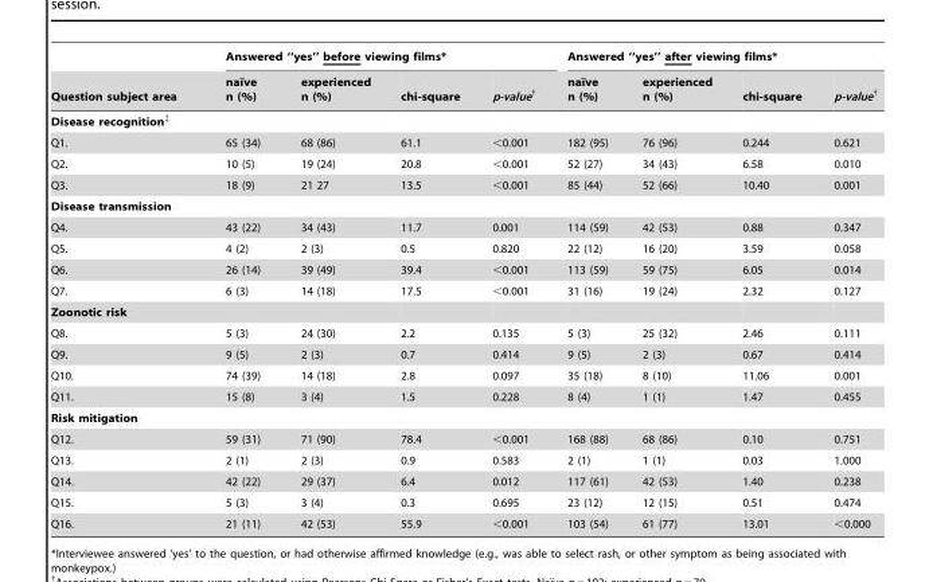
<table><thead><tr><td rowspan="2">Question subject area</td><td colspan="4">Answered ‘‘yes’’ before viewing films*</td><td colspan="4">Answered ‘‘yes’’ after viewing films*</td></tr><tr><td>naı¨ve n (%)</td><td>experienced n (%)</td><td>chi-square</td><td>p-value†</td><td>naı¨ve n (%)</td><td>experienced n (%)</td><td>chi-square</td><td>p-value†</td></tr></thead><tbody><tr><td colspan="9">Disease recognition‡</td></tr><tr><td>Q1.</td><td>65 (34)</td><td>68 (86)</td><td>61.1</td><td>&lt;0.001</td><td>182 (95)</td><td>76 (96)</td><td>0.244</td><td>0.621</td></tr><tr><td>Q2.</td><td>10 (5)</td><td>19 (24)</td><td>20.8</td><td>&lt;0.001</td><td>52 (27)</td><td>34 (43)</td><td>6.58</td><td>0.010</td></tr><tr><td>Q3.</td><td>18 (9)</td><td>21 27</td><td>13.5</td><td>&lt;0.001</td><td>85 (44)</td><td>52 (66)</td><td>10.40</td><td>0.001</td></tr><tr><td colspan="9">Disease transmission</td></tr><tr><td>Q4.</td><td>43 (22)</td><td>34 (43)</td><td>11.7</td><td>0.001</td><td>114 (59)</td><td>42 (53)</td><td>0.88</td><td>0.347</td></tr><tr><td>Q5.</td><td>4 (2)</td><td>2 (3)</td><td>0.5</td><td>0.820</td><td>22 (12)</td><td>16 (20)</td><td>3.59</td><td>0.058</td></tr><tr><td>Q6.</td><td>26 (14)</td><td>39 (49)</td><td>39.4</td><td>&lt;0.001</td><td>113 (59)</td><td>59 (75)</td><td>6.05</td><td>0.014</td></tr><tr><td>Q7.</td><td>6 (3)</td><td>14 (18)</td><td>17.5</td><td>&lt;0.001</td><td>31 (16)</td><td>19 (24)</td><td>2.32</td><td>0.127</td></tr><tr><td colspan="9">Zoonotic risk</td></tr><tr><td>Q8.</td><td>5 (3)</td><td>24 (30)</td><td>2.2</td><td>0.135</td><td>5 (3)</td><td>25 (32)</td><td>2.46</td><td>0.111</td></tr><tr><td>Q9.</td><td>9 (5)</td><td>2 (3)</td><td>0.7</td><td>0.414</td><td>9 (5)</td><td>2 (3)</td><td>0.67</td><td>0.414</td></tr><tr><td>Q10.</td><td>74 (39)</td><td>14 (18)</td><td>2.8</td><td>0.097</td><td>35 (18)</td><td>8 (10)</td><td>11.06</td><td>0.001</td></tr><tr><td>Q11.</td><td>15 (8)</td><td>3 (4)</td><td>1.5</td><td>0.228</td><td>8 (4)</td><td>1 (1)</td><td>1.47</td><td>0.455</td></tr><tr><td colspan="9">Risk mitigation</td></tr><tr><td>Q12.</td><td>59 (31)</td><td>71 (90)</td><td>78.4</td><td>&lt;0.001</td><td>168 (88)</td><td>68 (86)</td><td>0.10</td><td>0.751</td></tr><tr><td>Q13.</td><td>2 (1)</td><td>2 (3)</td><td>0.9</td><td>0.583</td><td>2 (1)</td><td>1 (1)</td><td>0.03</td><td>1.000</td></tr><tr><td>Q14.</td><td>42 (22)</td><td>29 (37)</td><td>6.4</td><td>0.012</td><td>117 (61)</td><td>42 (53)</td><td>1.40</td><td>0.238</td></tr><tr><td>Q15.</td><td>5 (3)</td><td>3 (4)</td><td>0.3</td><td>0.695</td><td>23 (12)</td><td>12 (15)</td><td>0.51</td><td>0.474</td></tr><tr><td>Q16.</td><td>21 (11)</td><td>42 (53)</td><td>55.9</td><td>&lt;0.001</td><td>103 (54)</td><td>61 (77)</td><td>13.01</td><td>&lt;0.000</td></tr></tbody></table>